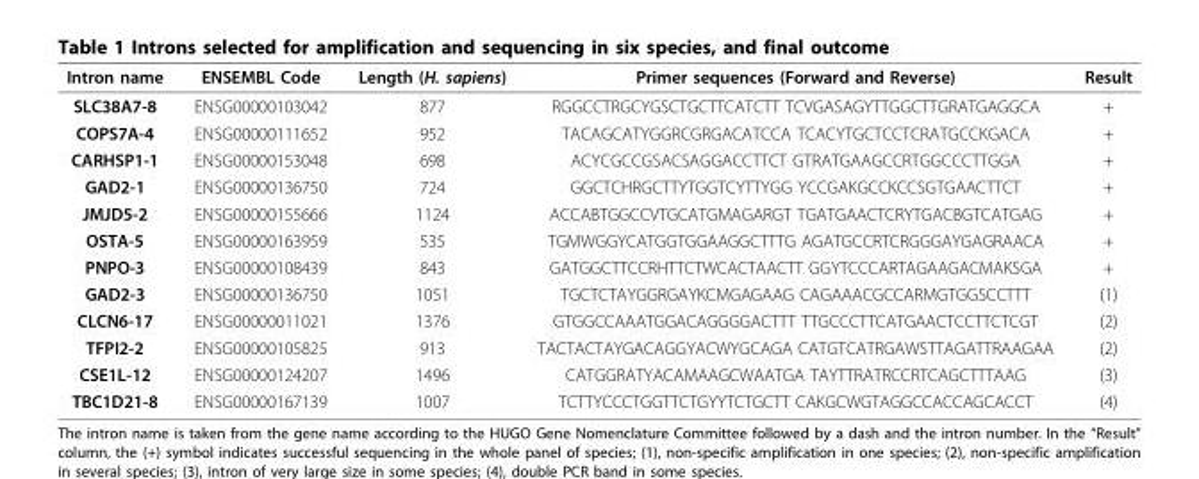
<table><thead><tr><td>Intron name</td><td>ENSEMBL Code</td><td>Length (H. sapiens)</td><td>Primer sequences (Forward and Reverse)</td><td>Result</td></tr></thead><tbody><tr><td>SLC38A7-8</td><td>ENSG00000103042</td><td>877</td><td>RGGCCTRGCYGSCTGCTTCATCTT TCVGASAGYTTGGCTTGRATGAGGCA</td><td>+</td></tr><tr><td>COPS7A-4</td><td>ENSG00000111652</td><td>952</td><td>TACAGCATYGGRCGRGACATCCA TCACYTGCTCCTCRATGCCKGACA</td><td>+</td></tr><tr><td>CARHSP1-1</td><td>ENSG00000153048</td><td>698</td><td>ACYCGCCGSACSAGGACCTTCT GTRATGAAGCCRTGGCCCTTGGA</td><td>+</td></tr><tr><td>GAD2-1</td><td>ENSG00000136750</td><td>724</td><td>GGCTCHRGCTTYTGGTCYTTYGG YCCGAKGCCKCCSGTGAACTTCT</td><td>+</td></tr><tr><td>JMJD5-2</td><td>ENSG00000155666</td><td>1124</td><td>ACCABTGGCCVTGCATGMAGARGT TGATGAACTCRYTGACBGTCATGAG</td><td>+</td></tr><tr><td>OSTA-5</td><td>ENSG00000163959</td><td>535</td><td>TGMWGGYCATGGTGGAAGGCTTTG AGATGCCRTCRGGGAYGAGRAACA</td><td>+</td></tr><tr><td>PNPO-3</td><td>ENSG00000108439</td><td>843</td><td>GATGGCTTCCRHTTCTWCACTAACTT GGYTCCCARTAGAAGACMAKSGA</td><td>+</td></tr><tr><td>GAD2-3</td><td>ENSG00000136750</td><td>1051</td><td>TGCTCTAYGGRGAYKCMGAGAAG CAGAAACGCCARMGTGGSCCTTT</td><td>(1)</td></tr><tr><td>CLCN6-17</td><td>ENSG00000011021</td><td>1376</td><td>GTGGCCAAATGGACAGGGGACTTT TTGCCCTTCATGAACTCCTTCTCGT</td><td>(2)</td></tr><tr><td>TFPI2-2</td><td>ENSG00000105825</td><td>913</td><td>TACTACTAYGACAGGYACWYGCAGA CATGTCATRGAWSTTAGATTRAAGAA</td><td>(2)</td></tr><tr><td>CSE1L-12</td><td>ENSG00000124207</td><td>1496</td><td>CATGGRATYACAMAAGCWAATGA TAYTTRATRCCRTCAGCTTTAAG</td><td>(3)</td></tr><tr><td>TBC1D21-8</td><td>ENSG00000167139</td><td>1007</td><td>TCTTYCCCTGGTTCTGYYTCTGCTT CAKGCWGTAGGCCACCAGCACCT</td><td>(4)</td></tr></tbody></table>